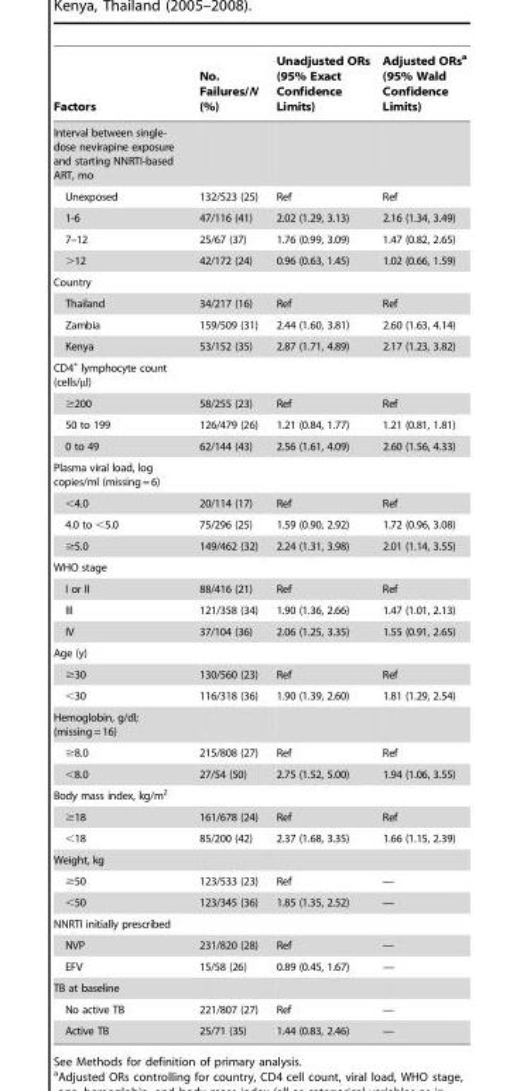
<table><thead><tr><td>Factors</td><td>No. Failures/N (%)</td><td>Unadjusted ORs (95% Exact Confidence Limits)</td><td>Adjusted ORs<sup>a</sup> (95% Wald Confidence Limits)</td></tr></thead><tbody><tr><td colspan="4">Interval between single- dose nevirapine exposure and starting NNRTI-based ART, mo</td></tr><tr><td>Unexposed</td><td>132/523 (25)</td><td>Ref</td><td>Ref</td></tr><tr><td>1-6</td><td>47/116 (41)</td><td>2.02 (1.29, 3.13)</td><td>2.16 (1.34, 3.49)</td></tr><tr><td>7–12</td><td>25/67 (37)</td><td>1.76 (0.99, 3.09)</td><td>1.47 (0.82, 2.65)</td></tr><tr><td>&gt;12</td><td>42/172 (24)</td><td>0.96 (0.63, 1.45)</td><td>1.02 (0.66, 1.59)</td></tr><tr><td colspan="4">Country</td></tr><tr><td>Thailand</td><td>34/217 (16)</td><td>Ref</td><td>Ref</td></tr><tr><td>Zambia</td><td>159/509 (31)</td><td>2.44 (1.60, 3.81)</td><td>2.60 (1.63, 4.14)</td></tr><tr><td>Kenya</td><td>53/152 (35)</td><td>2.87 (1.71, 4.89)</td><td>2.17 (1.23, 3.82)</td></tr><tr><td colspan="4">CD4<sup>+</sup> lymphocyte count (cells/µl)</td></tr><tr><td>≥200</td><td>58/255 (23)</td><td>Ref</td><td>Ref</td></tr><tr><td>50 to 199</td><td>126/479 (26)</td><td>1.21 (0.84, 1.77)</td><td>1.21 (0.81, 1.81)</td></tr><tr><td>0 to 49</td><td>62/144 (43)</td><td>2.56 (1.61, 4.09)</td><td>2.60 (1.56, 4.33)</td></tr><tr><td colspan="4">Plasma viral load, log copies/ml (missing=6)</td></tr><tr><td>&lt;4.0</td><td>20/114 (17)</td><td>Ref</td><td>Ref</td></tr><tr><td>4.0 to &lt;5.0</td><td>75/296 (25)</td><td>1.59 (0.90, 2.92)</td><td>1.72 (0.96, 3.08)</td></tr><tr><td>≥5.0</td><td>149/462 (32)</td><td>2.24 (1.31, 3.98)</td><td>2.01 (1.14, 3.55)</td></tr><tr><td colspan="4">WHO stage</td></tr><tr><td>I or II</td><td>88/416 (21)</td><td>Ref</td><td>Ref</td></tr><tr><td>III</td><td>121/358 (34)</td><td>1.90 (1.36, 2.66)</td><td>1.47 (1.01, 2.13)</td></tr><tr><td>IV</td><td>37/104 (36)</td><td>2.06 (1.25, 3.35)</td><td>1.55 (0.91, 2.65)</td></tr><tr><td colspan="4">Age (y)</td></tr><tr><td>≥30</td><td>130/560 (23)</td><td>Ref</td><td>Ref</td></tr><tr><td>&lt;30</td><td>116/318 (36)</td><td>1.90 (1.39, 2.60)</td><td>1.81 (1.29, 2.54)</td></tr><tr><td colspan="4">Hemoglobin, g/dl; (missing= 16)</td></tr><tr><td>≥8.0</td><td>215/808 (27)</td><td>Ref</td><td>Ref</td></tr><tr><td>&lt;8.0</td><td>27/54 (50)</td><td>2.75 (1.52, 5.00)</td><td>1.94 (1.06, 3.55)</td></tr><tr><td colspan="4">Body mass index, kg/m<sup>2</sup></td></tr><tr><td>≥18</td><td>161/678 (24)</td><td>Ref</td><td>Ref</td></tr><tr><td>&lt;18</td><td>85/200 (42)</td><td>2.37 (1.68, 3.35)</td><td>1.66 (1.15, 2.39)</td></tr><tr><td colspan="4">Weight, kg</td></tr><tr><td>≥50</td><td>123/533 (23)</td><td>Ref</td><td>—</td></tr><tr><td>&lt;50</td><td>123/345 (36)</td><td>1.85 (1.35, 2.52)</td><td>—</td></tr><tr><td colspan="4">NNRTI initially prescribed</td></tr><tr><td>NVP</td><td>231/820 (28)</td><td>Ref</td><td>—</td></tr><tr><td>EFV</td><td>15/58 (26)</td><td>0.89 (0.45, 1.67)</td><td>—</td></tr><tr><td colspan="4">TB at baseline</td></tr><tr><td>No active TB</td><td>221/807 (27)</td><td>Ref</td><td>—</td></tr><tr><td>Active TB</td><td>25/71 (35)</td><td>1.44 (0.83, 2.46)</td><td>—</td></tr></tbody></table>